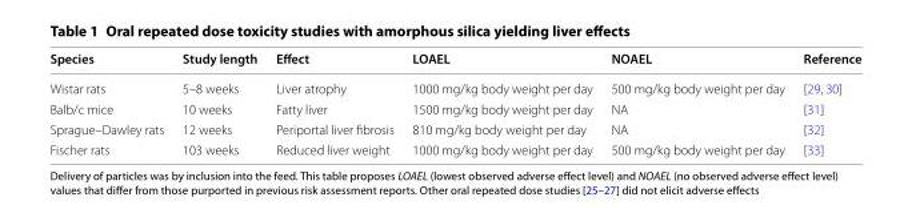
<table><thead><tr><td>Species</td><td>Study length</td><td>Effect</td><td>LOAEL</td><td>NOAEL</td><td>Reference</td></tr></thead><tbody><tr><td>Wistar rats</td><td>5–8 weeks</td><td>Liver atrophy</td><td>1000 mg/kg body weight per day</td><td>500 mg/kg body weight per day</td><td>[29, 30]</td></tr><tr><td>Balb/c mice</td><td>10 weeks</td><td>Fatty liver</td><td>1500 mg/kg body weight per day</td><td>NA</td><td>[31]</td></tr><tr><td>Sprague–Dawley rats</td><td>12 weeks</td><td>Periportal liver fibrosis</td><td>810 mg/kg body weight per day</td><td>NA</td><td>[32]</td></tr><tr><td>Fischer rats</td><td>103 weeks</td><td>Reduced liver weight</td><td>1000 mg/kg body weight per day</td><td>500 mg/kg body weight per day</td><td>[33]</td></tr></tbody></table>